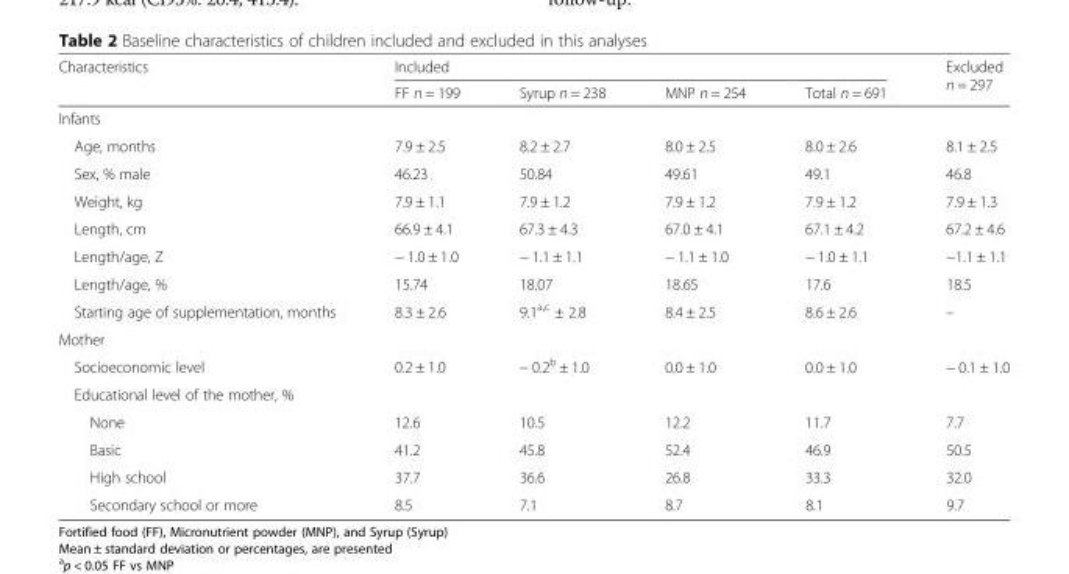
<table><thead><tr><td rowspan="2">Characteristics</td><td colspan="4">Included</td><td rowspan="2">Excluded n = 297</td></tr><tr><td>FF n = 199</td><td>Syrup n = 238</td><td>MNP n = 254</td><td>Total n = 691</td></tr></thead><tbody><tr><td colspan="6">Infants</td></tr><tr><td>Age, months</td><td>7.9 ± 2.5</td><td>8.2 ± 2.7</td><td>8.0 ± 2.5</td><td>8.0 ± 2.6</td><td>8.1 ± 2.5</td></tr><tr><td>Sex, % male</td><td>46.23</td><td>50.84</td><td>49.61</td><td>49.1</td><td>46.8</td></tr><tr><td>Weight, kg</td><td>7.9 ± 1.1</td><td>7.9 ± 1.2</td><td>7.9 ± 1.2</td><td>7.9 ± 1.2</td><td>7.9 ± 1.3</td></tr><tr><td>Length, cm</td><td>66.9 ± 4.1</td><td>67.3 ± 4.3</td><td>67.0 ± 4.1</td><td>67.1 ± 4.2</td><td>67.2 ± 4.6</td></tr><tr><td>Length/age, Z</td><td>− 1.0 ± 1.0</td><td>− 1.1 ± 1.1</td><td>− 1.1 ± 1.0</td><td>− 1.0 ± 1.1</td><td>−1.1 ± 1.1</td></tr><tr><td>Length/age, %</td><td>15.74</td><td>18.07</td><td>18.65</td><td>17.6</td><td>18.5</td></tr><tr><td>Starting age of supplementation, months</td><td>8.3 ± 2.6</td><td>9.1<sup>a,c</sup> ± 2.8</td><td>8.4 ± 2.5</td><td>8.6 ± 2.6</td><td>–</td></tr><tr><td colspan="6">Mother</td></tr><tr><td>Socioeconomic level</td><td>0.2 ± 1.0</td><td>− 0.2<sup>b</sup> ± 1.0</td><td>0.0 ± 1.0</td><td>0.0 ± 1.0</td><td>− 0.1 ± 1.0</td></tr><tr><td colspan="6">Educational level of the mother, %</td></tr><tr><td>None</td><td>12.6</td><td>10.5</td><td>12.2</td><td>11.7</td><td>7.7</td></tr><tr><td>Basic</td><td>41.2</td><td>45.8</td><td>52.4</td><td>46.9</td><td>50.5</td></tr><tr><td>High school</td><td>37.7</td><td>36.6</td><td>26.8</td><td>33.3</td><td>32.0</td></tr><tr><td>Secondary school or more</td><td>8.5</td><td>7.1</td><td>8.7</td><td>8.1</td><td>9.7</td></tr></tbody></table>